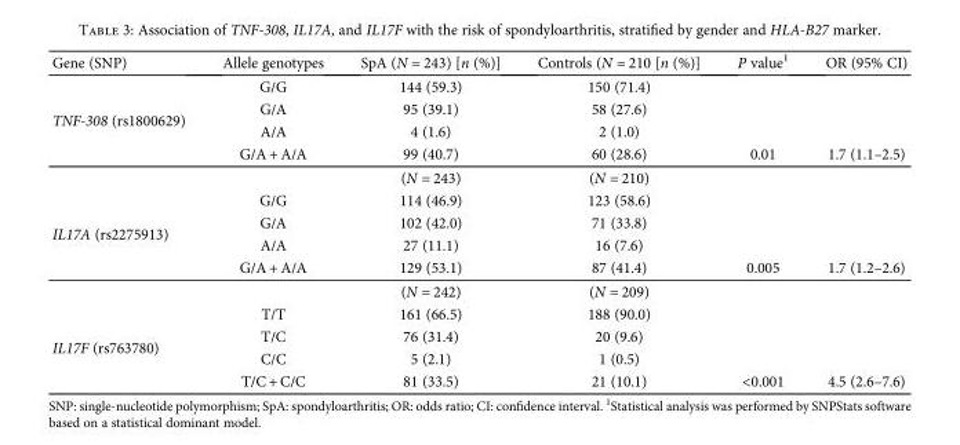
<table><thead><tr><td>Gene (SNP)</td><td>Allele genotypes</td><td>SpA (N = 243) [n (%)]</td><td>Controls (N = 210 [n (%)]</td><td>P value<sup>1</sup></td><td>OR (95% CI)</td></tr></thead><tbody><tr><td rowspan="5">TNF-308 (rs1800629)</td><td>G/G</td><td>144 (59.3)</td><td>150 (71.4)</td><td rowspan="3"></td><td rowspan="3"></td></tr><tr><td>G/A</td><td>95 (39.1)</td><td>58 (27.6)</td></tr><tr><td>A/A</td><td>4 (1.6)</td><td>2 (1.0)</td></tr><tr><td>G/A + A/A</td><td>99 (40.7)</td><td>60 (28.6)</td><td>0.01</td><td>1.7 (1.1–2.5)</td></tr><tr><td></td><td>(N = 243)</td><td>(N = 210)</td><td></td><td></td></tr><tr><td rowspan="5">IL17A (rs2275913)</td><td>G/G</td><td>114 (46.9)</td><td>123 (58.6)</td><td rowspan="3"></td><td rowspan="3"></td></tr><tr><td>G/A</td><td>102 (42.0)</td><td>71 (33.8)</td></tr><tr><td>A/A</td><td>27 (11.1)</td><td>16 (7.6)</td></tr><tr><td>G/A + A/A</td><td>129 (53.1)</td><td>87 (41.4)</td><td>0.005</td><td>1.7 (1.2–2.6)</td></tr><tr><td></td><td>(N = 242)</td><td>(N = 209)</td><td></td><td></td></tr><tr><td rowspan="4">IL17F (rs763780)</td><td>T/T</td><td>161 (66.5)</td><td>188 (90.0)</td><td rowspan="3"></td><td rowspan="3"></td></tr><tr><td>T/C</td><td>76 (31.4)</td><td>20 (9.6)</td></tr><tr><td>C/C</td><td>5 (2.1)</td><td>1 (0.5)</td></tr><tr><td>T/C + C/C</td><td>81 (33.5)</td><td>21 (10.1)</td><td>&lt;0.001</td><td>4.5 (2.6–7.6)</td></tr></tbody></table>